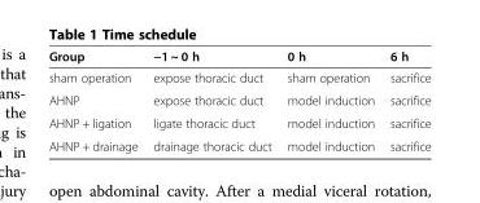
<table><thead><tr><td>Group</td><td>−1 ~ 0 h</td><td>0 h</td><td>6 h</td></tr></thead><tbody><tr><td>sham operation</td><td>expose thoracic duct</td><td>sham operation</td><td>sacrifice</td></tr><tr><td>AHNP</td><td>expose thoracic duct</td><td>model induction</td><td>sacrifice</td></tr><tr><td>AHNP + ligation</td><td>ligate thoracic duct</td><td>model induction</td><td>sacrifice</td></tr><tr><td>AHNP + drainage</td><td>drainage thoracic duct</td><td>model induction</td><td>sacrifice</td></tr></tbody></table>